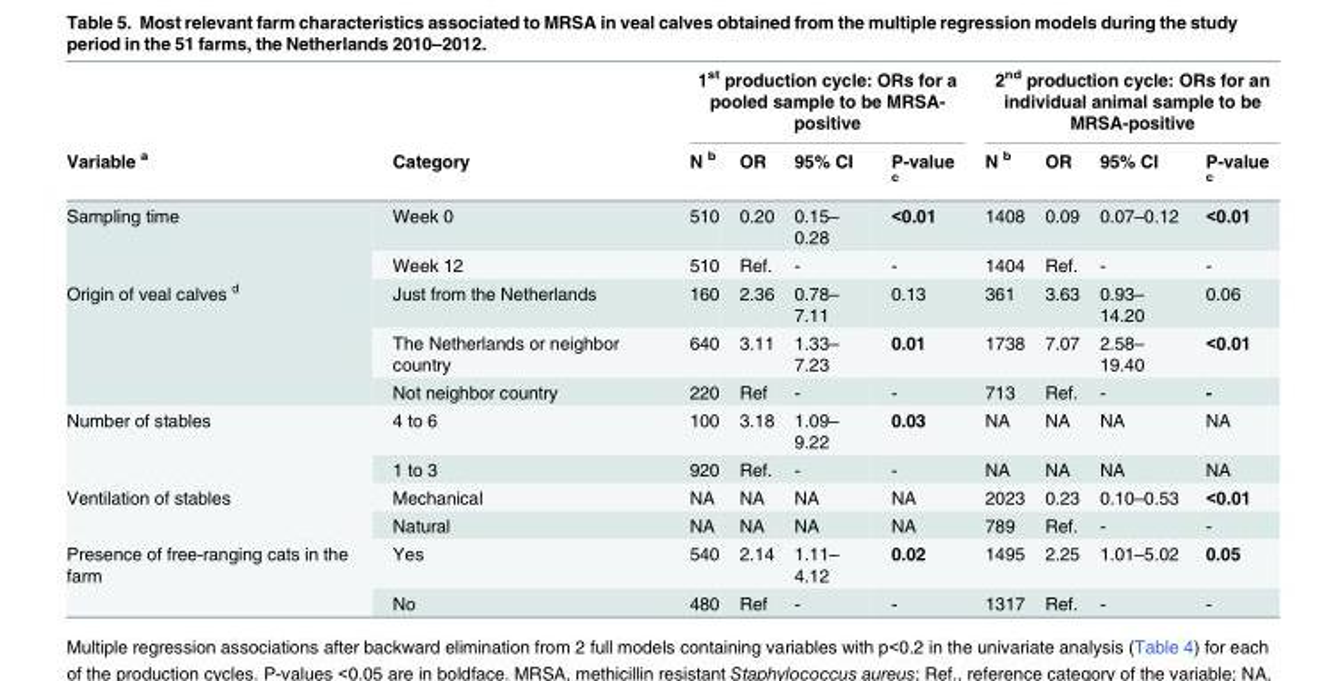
<table><thead><tr><td rowspan="2">Variable <sup>a</sup></td><td rowspan="2">Category</td><td colspan="4">1<sup>st</sup> production cycle: ORs for a pooled sample to be MRSA- positive</td><td colspan="4">2<sup>nd</sup> production cycle: ORs for an individual animal sample to be MRSA-positive</td></tr><tr><td>N <sup>b</sup></td><td>OR</td><td>95% CI</td><td>P-value <sup>c</sup></td><td>N <sup>b</sup></td><td>OR</td><td>95% CI</td><td>P-value <sup>c</sup></td></tr></thead><tbody><tr><td rowspan="2">Sampling time</td><td>Week 0</td><td>510</td><td>0.20</td><td>0.15– 0.28</td><td>&lt;0.01</td><td>1408</td><td>0.09</td><td>0.07–0.12</td><td>&lt;0.01</td></tr><tr><td>Week 12</td><td>510</td><td>Ref.</td><td>-</td><td>-</td><td>1404</td><td>Ref.</td><td>-</td><td>-</td></tr><tr><td rowspan="3">Origin of veal calves <sup>d</sup></td><td>Just from the Netherlands</td><td>160</td><td>2.36</td><td>0.78– 7.11</td><td>0.13</td><td>361</td><td>3.63</td><td>0.93– 14.20</td><td>0.06</td></tr><tr><td>The Netherlands or neighbor country</td><td>640</td><td>3.11</td><td>1.33– 7.23</td><td>0.01</td><td>1738</td><td>7.07</td><td>2.58– 19.40</td><td>&lt;0.01</td></tr><tr><td>Not neighbor country</td><td>220</td><td>Ref</td><td>-</td><td>-</td><td>713</td><td>Ref.</td><td>-</td><td>-</td></tr><tr><td rowspan="2">Number of stables</td><td>4 to 6</td><td>100</td><td>3.18</td><td>1.09– 9.22</td><td>0.03</td><td>NA</td><td>NA</td><td>NA</td><td>NA</td></tr><tr><td>1 to 3</td><td>920</td><td>Ref.</td><td>-</td><td>-</td><td>NA</td><td>NA</td><td>NA</td><td>NA</td></tr><tr><td rowspan="2">Ventilation of stables</td><td>Mechanical</td><td>NA</td><td>NA</td><td>NA</td><td>NA</td><td>2023</td><td>0.23</td><td>0.10–0.53</td><td>&lt;0.01</td></tr><tr><td>Natural</td><td>NA</td><td>NA</td><td>NA</td><td>NA</td><td>789</td><td>Ref.</td><td>-</td><td>-</td></tr><tr><td rowspan="2">Presence of free-ranging cats in the farm</td><td>Yes</td><td>540</td><td>2.14</td><td>1.11– 4.12</td><td>0.02</td><td>1495</td><td>2.25</td><td>1.01–5.02</td><td>0.05</td></tr><tr><td>No</td><td>480</td><td>Ref</td><td>-</td><td>-</td><td>1317</td><td>Ref.</td><td>-</td><td>-</td></tr></tbody></table>